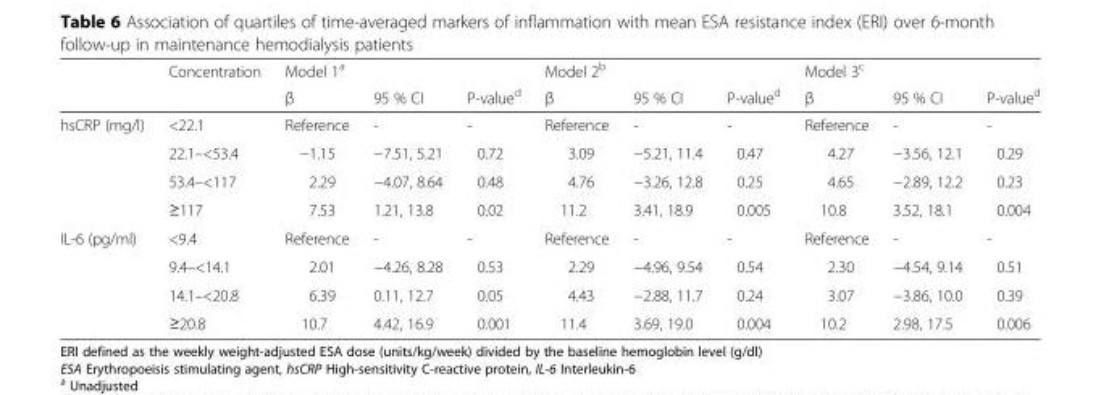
<table><thead><tr><td rowspan="2"></td><td rowspan="2">Concentration</td><td colspan="3">Model 1<sup>a</sup></td><td colspan="3">Model 2<sup>b</sup></td><td colspan="3">Model 3<sup>c</sup></td></tr><tr><td>β</td><td>95 % CI</td><td>P-value<sup>d</sup></td><td>β</td><td>95 % CI</td><td>P-value<sup>d</sup></td><td>β</td><td>95 % CI</td><td>P-value<sup>d</sup></td></tr></thead><tbody><tr><td rowspan="4">hsCRP (mg/l)</td><td>&lt;22.1</td><td>Reference</td><td>-</td><td>-</td><td>Reference</td><td>-</td><td>-</td><td>Reference</td><td>-</td><td>-</td></tr><tr><td>22.1–&lt;53.4</td><td>−1.15</td><td>−7.51, 5.21</td><td>0.72</td><td>3.09</td><td>−5.21, 11.4</td><td>0.47</td><td>4.27</td><td>−3.56, 12.1</td><td>0.29</td></tr><tr><td>53.4–&lt;117</td><td>2.29</td><td>−4.07, 8.64</td><td>0.48</td><td>4.76</td><td>−3.26, 12.8</td><td>0.25</td><td>4.65</td><td>−2.89, 12.2</td><td>0.23</td></tr><tr><td>≥117</td><td>7.53</td><td>1.21, 13.8</td><td>0.02</td><td>11.2</td><td>3.41, 18.9</td><td>0.005</td><td>10.8</td><td>3.52, 18.1</td><td>0.004</td></tr><tr><td rowspan="4">IL-6 (pg/ml)</td><td>&lt;9.4</td><td>Reference</td><td>-</td><td>-</td><td>Reference</td><td>-</td><td>-</td><td>Reference</td><td>-</td><td>-</td></tr><tr><td>9.4–&lt;14.1</td><td>2.01</td><td>−4.26, 8.28</td><td>0.53</td><td>2.29</td><td>−4.96, 9.54</td><td>0.54</td><td>2.30</td><td>−4.54, 9.14</td><td>0.51</td></tr><tr><td>14.1–&lt;20.8</td><td>6.39</td><td>0.11, 12.7</td><td>0.05</td><td>4.43</td><td>−2.88, 11.7</td><td>0.24</td><td>3.07</td><td>−3.86, 10.0</td><td>0.39</td></tr><tr><td>≥20.8</td><td>10.7</td><td>4.42, 16.9</td><td>0.001</td><td>11.4</td><td>3.69, 19.0</td><td>0.004</td><td>10.2</td><td>2.98, 17.5</td><td>0.006</td></tr></tbody></table>